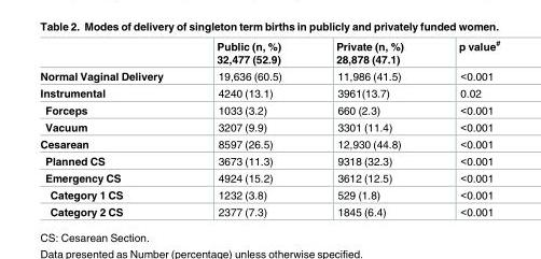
<table><thead><tr><td></td><td>Public (n, %) 32,477 (52.9)</td><td>Private (n, %) 28,878 (47.1)</td><td>p value<sup>#</sup></td></tr></thead><tbody><tr><td>Normal Vaginal Delivery</td><td>19,636 (60.5)</td><td>11,986 (41.5)</td><td>&lt;0.001</td></tr><tr><td>Instrumental</td><td>4240 (13.1)</td><td>3961(13.7)</td><td>0.02</td></tr><tr><td>Forceps</td><td>1033 (3.2)</td><td>660 (2.3)</td><td>&lt;0.001</td></tr><tr><td>Vacuum</td><td>3207 (9.9)</td><td>3301 (11.4)</td><td>&lt;0.001</td></tr><tr><td>Cesarean</td><td>8597 (26.5)</td><td>12,930 (44.8)</td><td>&lt;0.001</td></tr><tr><td>Planned CS</td><td>3673 (11.3)</td><td>9318 (32.3)</td><td>&lt;0.001</td></tr><tr><td>Emergency CS</td><td>4924 (15.2)</td><td>3612 (12.5)</td><td>&lt;0.001</td></tr><tr><td>Category 1 CS</td><td>1232 (3.8)</td><td>529 (1.8)</td><td>&lt;0.001</td></tr><tr><td>Category 2 CS</td><td>2377 (7.3)</td><td>1845 (6.4)</td><td>&lt;0.001</td></tr></tbody></table>